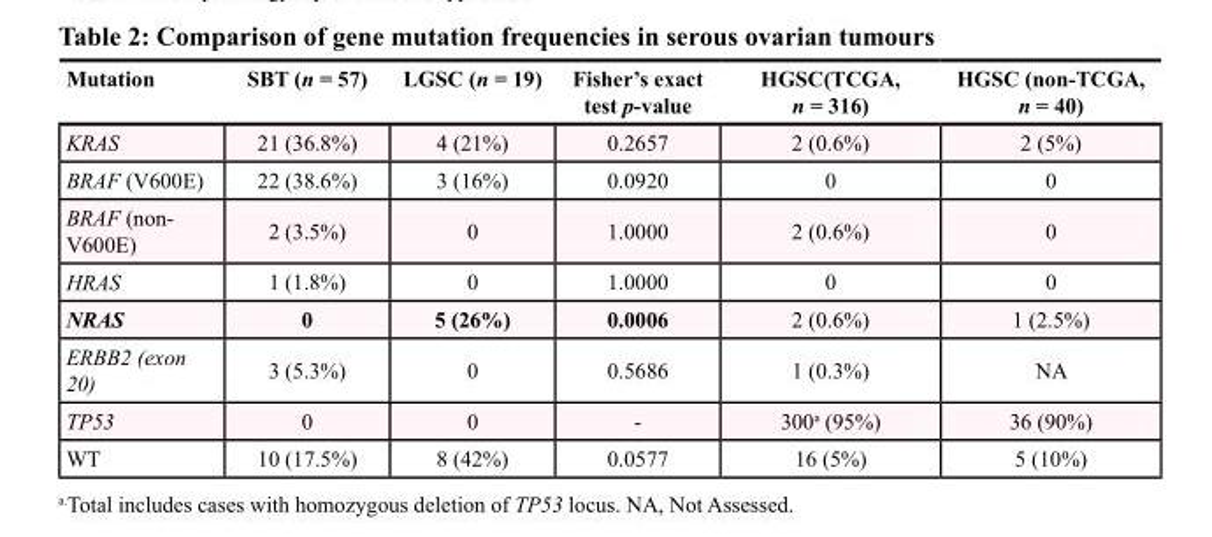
<table><thead><tr><td>Mutation</td><td>SBT (n = 57)</td><td>LGSC (n = 19)</td><td>Fisher’s exact test p-value</td><td>HGSC(TCGA, n = 316)</td><td>HGSC (non-TCGA, n = 40)</td></tr></thead><tbody><tr><td>KRAS</td><td>21 (36.8%)</td><td>4 (21%)</td><td>0.2657</td><td>2 (0.6%)</td><td>2 (5%)</td></tr><tr><td>BRAF (V600E)</td><td>22 (38.6%)</td><td>3 (16%)</td><td>0.0920</td><td>0</td><td>0</td></tr><tr><td>BRAF (non- V600E)</td><td>2 (3.5%)</td><td>0</td><td>1.0000</td><td>2 (0.6%)</td><td>0</td></tr><tr><td>HRAS</td><td>1 (1.8%)</td><td>0</td><td>1.0000</td><td>0</td><td>0</td></tr><tr><td>NRAS</td><td>0</td><td>5 (26%)</td><td>0.0006</td><td>2 (0.6%)</td><td>1 (2.5%)</td></tr><tr><td>ERBB2 (exon 20)</td><td>3 (5.3%)</td><td>0</td><td>0.5686</td><td>1 (0.3%)</td><td>NA</td></tr><tr><td>TP53</td><td>0</td><td>0</td><td>-</td><td>300<sup>a</sup> (95%)</td><td>36 (90%)</td></tr><tr><td>WT</td><td>10 (17.5%)</td><td>8 (42%)</td><td>0.0577</td><td>16 (5%)</td><td>5 (10%)</td></tr></tbody></table>